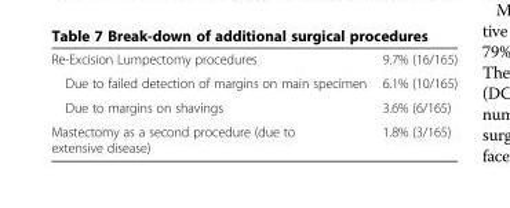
<table><tbody><tr><td>Re-Excision Lumpectomy procedures</td><td>9.7% (16/165)</td></tr><tr><td>Due to failed detection of margins on main specimen</td><td>6.1% (10/165)</td></tr><tr><td>Due to margins on shavings</td><td>3.6% (6/165)</td></tr><tr><td>Mastectomy as a second procedure (due to extensive disease)</td><td>1.8% (3/165)</td></tr></tbody></table>